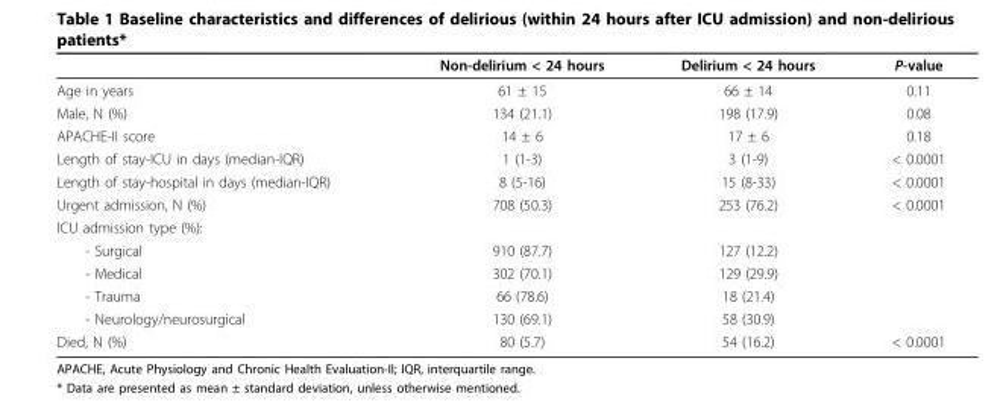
<table><thead><tr><td></td><td>Non-delirium &lt; 24 hours</td><td>Delirium &lt; 24 hours</td><td>P-value</td></tr></thead><tbody><tr><td>Age in years</td><td>61 ± 15</td><td>66 ± 14</td><td>0.11</td></tr><tr><td>Male, N (%)</td><td>134 (21.1)</td><td>198 (17.9)</td><td>0.08</td></tr><tr><td>APACHE-II score</td><td>14 ± 6</td><td>17 ± 6</td><td>0.18</td></tr><tr><td>Length of stay-ICU in days (median-IQR)</td><td>1 (1-3)</td><td>3 (1-9)</td><td>&lt; 0.0001</td></tr><tr><td>Length of stay-hospital in days (median-IQR)</td><td>8 (5-16)</td><td>15 (8-33)</td><td>&lt; 0.0001</td></tr><tr><td>Urgent admission, N (%)</td><td>708 (50.3)</td><td>253 (76.2)</td><td>&lt; 0.0001</td></tr><tr><td colspan="4">ICU admission type (%):</td></tr><tr><td>- Surgical</td><td>910 (87.7)</td><td>127 (12.2)</td><td></td></tr><tr><td>- Medical</td><td>302 (70.1)</td><td>129 (29.9)</td><td></td></tr><tr><td>- Trauma</td><td>66 (78.6)</td><td>18 (21.4)</td><td></td></tr><tr><td>- Neurology/neurosurgical</td><td>130 (69.1)</td><td>58 (30.9)</td><td></td></tr><tr><td>Died, N (%)</td><td>80 (5.7)</td><td>54 (16.2)</td><td>&lt; 0.0001</td></tr></tbody></table>